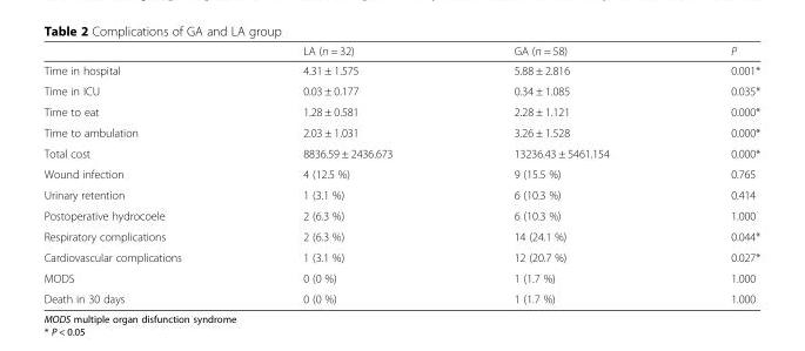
<table><thead><tr><td></td><td>LA (n = 32)</td><td>GA (n = 58)</td><td>P</td></tr></thead><tbody><tr><td>Time in hospital</td><td>4.31 ± 1.575</td><td>5.88 ± 2.816</td><td>0.001*</td></tr><tr><td>Time in ICU</td><td>0.03 ± 0.177</td><td>0.34 ± 1.085</td><td>0.035*</td></tr><tr><td>Time to eat</td><td>1.28 ± 0.581</td><td>2.28 ± 1.121</td><td>0.000*</td></tr><tr><td>Time to ambulation</td><td>2.03 ± 1.031</td><td>3.26 ± 1.528</td><td>0.000*</td></tr><tr><td>Total cost</td><td>8836.59 ± 2436.673</td><td>13236.43 ± 5461.154</td><td>0.000*</td></tr><tr><td>Wound infection</td><td>4 (12.5 %)</td><td>9 (15.5 %)</td><td>0.765</td></tr><tr><td>Urinary retention</td><td>1 (3.1 %)</td><td>6 (10.3 %)</td><td>0.414</td></tr><tr><td>Postoperative hydrocoele</td><td>2 (6.3 %)</td><td>6 (10.3 %)</td><td>1.000</td></tr><tr><td>Respiratory complications</td><td>2 (6.3 %)</td><td>14 (24.1 %)</td><td>0.044*</td></tr><tr><td>Cardiovascular complications</td><td>1 (3.1 %)</td><td>12 (20.7 %)</td><td>0.027*</td></tr><tr><td>MODS</td><td>0 (0 %)</td><td>1 (1.7 %)</td><td>1.000</td></tr><tr><td>Death in 30 days</td><td>0 (0 %)</td><td>1 (1.7 %)</td><td>1.000</td></tr></tbody></table>